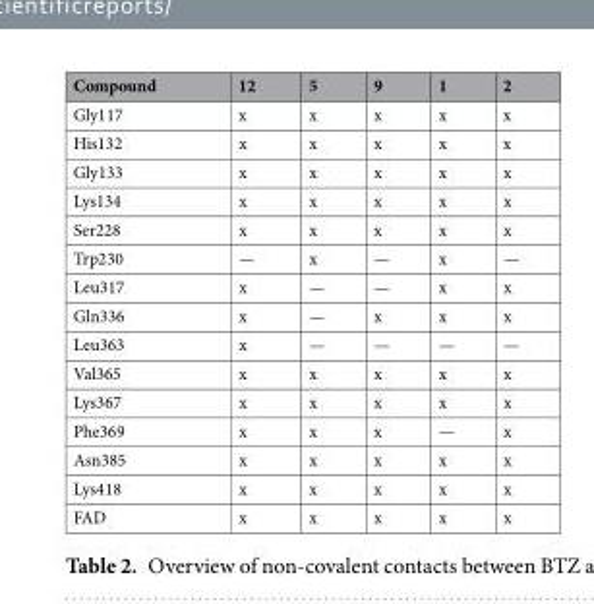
<table><thead><tr><td>Compound</td><td>12</td><td>5</td><td>9</td><td>1</td><td>2</td></tr></thead><tbody><tr><td>Gly117</td><td>x</td><td>x</td><td>x</td><td>x</td><td>x</td></tr><tr><td>His132</td><td>x</td><td>x</td><td>x</td><td>x</td><td>x</td></tr><tr><td>Gly133</td><td>x</td><td>x</td><td>x</td><td>x</td><td>x</td></tr><tr><td>Lys134</td><td>x</td><td>x</td><td>x</td><td>x</td><td>x</td></tr><tr><td>Ser228</td><td>x</td><td>x</td><td>x</td><td>x</td><td>x</td></tr><tr><td>Trp230</td><td>—</td><td>x</td><td>—</td><td>x</td><td>—</td></tr><tr><td>Leu317</td><td>x</td><td>—</td><td>—</td><td>x</td><td>x</td></tr><tr><td>Gln336</td><td>x</td><td>—</td><td>x</td><td>x</td><td>x</td></tr><tr><td>Leu363</td><td>x</td><td>—</td><td>—</td><td>—</td><td>—</td></tr><tr><td>Val365</td><td>x</td><td>x</td><td>x</td><td>x</td><td>x</td></tr><tr><td>Lys367</td><td>x</td><td>x</td><td>x</td><td>x</td><td>x</td></tr><tr><td>Phe369</td><td>x</td><td>x</td><td>x</td><td>—</td><td>x</td></tr><tr><td>Asn385</td><td>x</td><td>x</td><td>x</td><td>x</td><td>x</td></tr><tr><td>Lys418</td><td>x</td><td>x</td><td>x</td><td>x</td><td>x</td></tr><tr><td>FAD</td><td>x</td><td>x</td><td>x</td><td>x</td><td>x</td></tr></tbody></table>